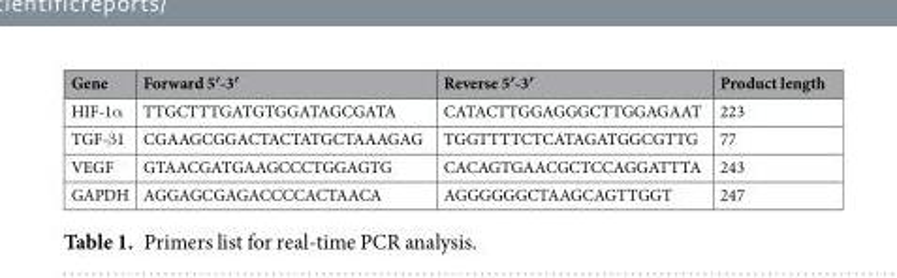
<table><thead><tr><td>Gene</td><td>Forward 5′-3′</td><td>Reverse 5′-3′</td><td>Product length</td></tr></thead><tbody><tr><td>HIF-1α</td><td>TTGCTTTGATGTGGATAGCGATA</td><td>CATACTTGGAGGGCTTGGAGAAT</td><td>223</td></tr><tr><td>TGF-β1</td><td>CGAAGCGGACTACTATGCTAAAGAG</td><td>TGGTTTTCTCATAGATGGCGTTG</td><td>77</td></tr><tr><td>VEGF</td><td>GTAACGATGAAGCCCTGGAGTG</td><td>CACAGTGAACGCTCCAGGATTTA</td><td>243</td></tr><tr><td>GAPDH</td><td>AGGAGCGAGACCCCACTAACA</td><td>AGGGGGGCTAAGCAGTTGGT</td><td>247</td></tr></tbody></table>